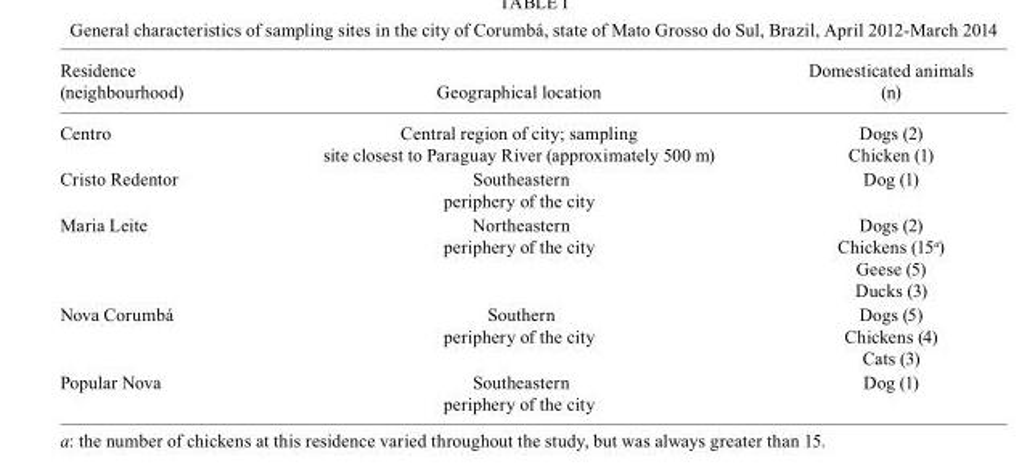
<table><tbody><tr><td>Residence (neighbourhood)</td><td>Geographical location</td><td>Domesticated animals (n)</td></tr><tr><td>Centro</td><td>Central region of city; sampling site closest to Paraguay River (approximately 500 m)</td><td>Dogs (2) Chicken (1)</td></tr><tr><td>Cristo Redentor</td><td>Southeastern periphery of the city</td><td>Dog (1)</td></tr><tr><td>Maria Leite</td><td>Northeastern periphery of the city</td><td>Dogs (2) Chickens (15<sup>a</sup>) Geese (5) Ducks (3)</td></tr><tr><td>Nova Corumbá</td><td>Southern periphery of the city</td><td>Dogs (5) Chickens (4) Cats (3)</td></tr><tr><td>Popular Nova</td><td>Southeastern periphery of the city</td><td>Dog (1)</td></tr></tbody></table>